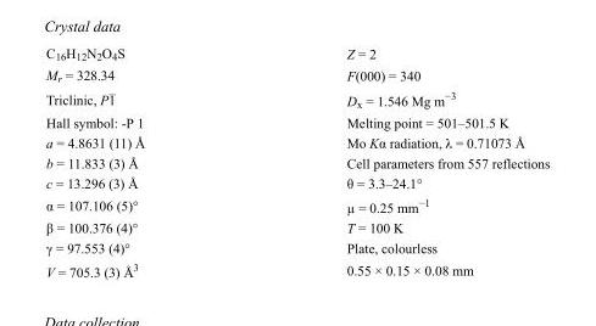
<table><tbody><tr><td>C<sub>16</sub>H<sub>12</sub>N<sub>2</sub>O<sub>4</sub>S</td><td>Z = 2</td></tr><tr><td>M<sub>r</sub> = 328.34</td><td>F(000) = 340</td></tr><tr><td>Triclinic, P1</td><td>D<sub>x</sub> = 1.546 Mg m<sup>−3</sup></td></tr><tr><td>Hall symbol: -P 1</td><td>Melting point = 501–501.5 K</td></tr><tr><td>a = 4.8631 (11) Å</td><td>Mo Kα radiation, λ = 0.71073 Å</td></tr><tr><td>b = 11.833 (3) Å</td><td>Cell parameters from 557 reflections</td></tr><tr><td>c = 13.296 (3) Å</td><td>θ = 3.3–24.1°</td></tr><tr><td>α = 107.106 (5)°</td><td>µ = 0.25 mm<sup>−1</sup></td></tr><tr><td>β = 100.376 (4)°</td><td>T = 100 K</td></tr><tr><td>γ = 97.553 (4)°</td><td>Plate, colourless</td></tr><tr><td>V = 705.3 (3) Å<sup>3</sup></td><td>0.55 × 0.15 × 0.08 mm</td></tr></tbody></table>